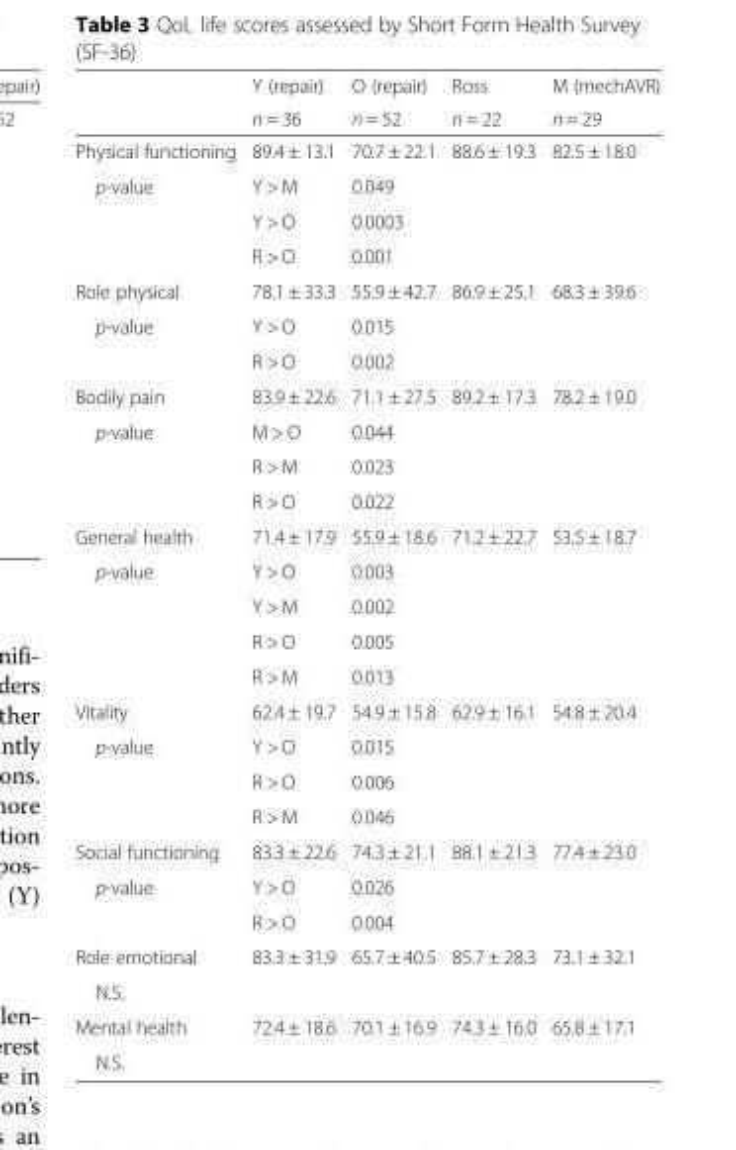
<table><thead><tr><td rowspan="2"></td><td rowspan="2">Y (repair) n = 36</td><td rowspan="2">O (repair) n = 52</td><td rowspan="2">Ross n = 22</td><td rowspan="2">M (mechAVR) n = 29</td></tr><tr></tr></thead><tbody><tr><td>Physical functioning</td><td>89.4 ± 13.1</td><td>70.7 ± 22.1</td><td>88.6 ± 19.3</td><td>82.5 ± 18.0</td></tr><tr><td rowspan="3">p-value</td><td>Y &gt; M</td><td>0.049</td><td></td><td></td></tr><tr><td>Y &gt; O</td><td>0.0003</td><td></td><td></td></tr><tr><td>R &gt; O</td><td>0.001</td><td></td><td></td></tr><tr><td>Role physical</td><td>78.1 ± 33.3</td><td>55.9 ± 42.7</td><td>86.9 ± 25.1</td><td>68.3 ± 39.6</td></tr><tr><td rowspan="2">p-value</td><td>Y &gt; O</td><td>0.015</td><td></td><td></td></tr><tr><td>R &gt; O</td><td>0.002</td><td></td><td></td></tr><tr><td>Bodily pain</td><td>83.9 ± 22.6</td><td>71.1 ± 27.5</td><td>89.2 ± 17.3</td><td>78.2 ± 19.0</td></tr><tr><td rowspan="3">p-value</td><td>M &gt; O</td><td>0.044</td><td></td><td></td></tr><tr><td>R &gt; M</td><td>0.023</td><td></td><td></td></tr><tr><td>R &gt; O</td><td>0.022</td><td></td><td></td></tr><tr><td>General health</td><td>71.4 ± 17.9</td><td>55.9 ± 18.6</td><td>71.2 ± 22.7</td><td>53.5 ± 18.7</td></tr><tr><td rowspan="4">p-value</td><td>Y &gt; O</td><td>0.003</td><td></td><td></td></tr><tr><td>Y &gt; M</td><td>0.002</td><td></td><td></td></tr><tr><td>R &gt; O</td><td>0.005</td><td></td><td></td></tr><tr><td>R &gt; M</td><td>0.013</td><td></td><td></td></tr><tr><td>Vitality</td><td>62.4 ± 19.7</td><td>54.9 ± 15.8</td><td>62.9 ± 16.1</td><td>54.8 ± 20.4</td></tr><tr><td rowspan="3">p-value</td><td>Y &gt; O</td><td>0.015</td><td></td><td></td></tr><tr><td>R &gt; O</td><td>0.006</td><td></td><td></td></tr><tr><td>R &gt; M</td><td>0.046</td><td></td><td></td></tr><tr><td>Social functioning</td><td>83.3 ± 22.6</td><td>74.3 ± 21.1</td><td>88.1 ± 21.3</td><td>77.4 ± 23.0</td></tr><tr><td rowspan="2">p-value</td><td>Y &gt; O</td><td>0.026</td><td></td><td></td></tr><tr><td>R &gt; O</td><td>0.004</td><td></td><td></td></tr><tr><td>Role emotional</td><td>83.3 ± 31.9</td><td>65.7 ± 40.5</td><td>85.7 ± 28.3</td><td>73.1 ± 32.1</td></tr><tr><td colspan="5">N.S.</td></tr><tr><td>Mental health</td><td>72.4 ± 18.6</td><td>70.1 ± 16.9</td><td>74.3 ± 16.0</td><td>65.8 ± 17.1</td></tr><tr><td>N.S.</td><td></td><td></td><td></td><td></td></tr></tbody></table>